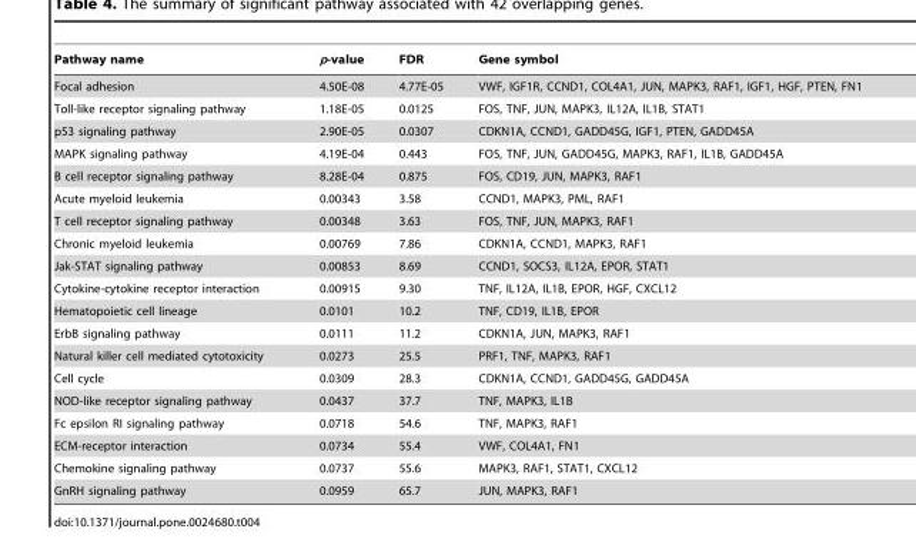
<table><thead><tr><td>Pathway name</td><td>p-value</td><td>FDR</td><td>Gene symbol</td></tr></thead><tbody><tr><td>Focal adhesion</td><td>4.50E-08</td><td>4.77E-05</td><td>VWF, IGF1R, CCND1, COL4A1, JUN, MAPK3, RAF1, IGF1, HGF, PTEN, FN1</td></tr><tr><td>Toll-like receptor signaling pathway</td><td>1.18E-05</td><td>0.0125</td><td>FOS, TNF, JUN, MAPK3, IL12A, IL1B, STAT1</td></tr><tr><td>p53 signaling pathway</td><td>2.90E-05</td><td>0.0307</td><td>CDKN1A, CCND1, GADD45G, IGF1, PTEN, GADD45A</td></tr><tr><td>MAPK signaling pathway</td><td>4.19E-04</td><td>0.443</td><td>FOS, TNF, JUN, GADD45G, MAPK3, RAF1, IL1B, GADD45A</td></tr><tr><td>B cell receptor signaling pathway</td><td>8.28E-04</td><td>0.875</td><td>FOS, CD19, JUN, MAPK3, RAF1</td></tr><tr><td>Acute myeloid leukemia</td><td>0.00343</td><td>3.58</td><td>CCND1, MAPK3, PML, RAF1</td></tr><tr><td>T cell receptor signaling pathway</td><td>0.00348</td><td>3.63</td><td>FOS, TNF, JUN, MAPK3, RAF1</td></tr><tr><td>Chronic myeloid leukemia</td><td>0.00769</td><td>7.86</td><td>CDKN1A, CCND1, MAPK3, RAF1</td></tr><tr><td>Jak-STAT signaling pathway</td><td>0.00853</td><td>8.69</td><td>CCND1, SOCS3, IL12A, EPOR, STAT1</td></tr><tr><td>Cytokine-cytokine receptor interaction</td><td>0.00915</td><td>9.30</td><td>TNF, IL12A, IL1B, EPOR, HGF, CXCL12</td></tr><tr><td>Hematopoietic cell lineage</td><td>0.0101</td><td>10.2</td><td>TNF, CD19, IL1B, EPOR</td></tr><tr><td>ErbB signaling pathway</td><td>0.0111</td><td>11.2</td><td>CDKN1A, JUN, MAPK3, RAF1</td></tr><tr><td>Natural killer cell mediated cytotoxicity</td><td>0.0273</td><td>25.5</td><td>PRF1, TNF, MAPK3, RAF1</td></tr><tr><td>Cell cycle</td><td>0.0309</td><td>28.3</td><td>CDKN1A, CCND1, GADD45G, GADD45A</td></tr><tr><td>NOD-like receptor signaling pathway</td><td>0.0437</td><td>37.7</td><td>TNF, MAPK3, IL1B</td></tr><tr><td>Fc epsilon RI signaling pathway</td><td>0.0718</td><td>54.6</td><td>TNF, MAPK3, RAF1</td></tr><tr><td>ECM-receptor interaction</td><td>0.0734</td><td>55.4</td><td>VWF, COL4A1, FN1</td></tr><tr><td>Chemokine signaling pathway</td><td>0.0737</td><td>55.6</td><td>MAPK3, RAF1, STAT1, CXCL12</td></tr><tr><td>GnRH signaling pathway</td><td>0.0959</td><td>65.7</td><td>JUN, MAPK3, RAF1</td></tr></tbody></table>